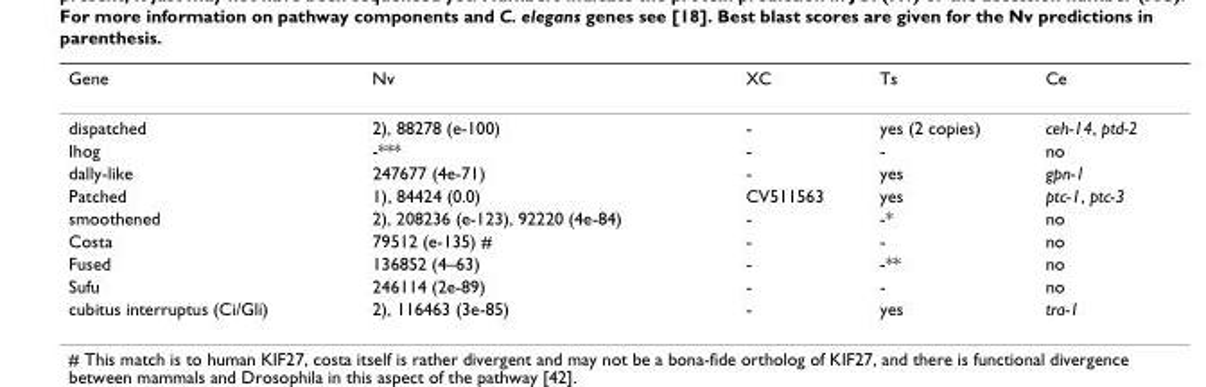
<table><thead><tr><td>Gene</td><td>Nv</td><td>XC</td><td>Ts</td><td>Ce</td></tr></thead><tbody><tr><td>dispatched</td><td>2), 88278 (e-100)</td><td>-</td><td>yes (2 copies)</td><td>ceh-14, ptd-2</td></tr><tr><td>Ihog</td><td>-***</td><td>-</td><td>-</td><td>no</td></tr><tr><td>dally-like</td><td>247677 (4e-71)</td><td>-</td><td>yes</td><td>gpn-1</td></tr><tr><td>Patched</td><td>1), 84424 (0.0)</td><td>CV511563</td><td>yes</td><td>ptc-1, ptc-3</td></tr><tr><td>smoothened</td><td>2), 208236 (e-123), 92220 (4e-84)</td><td>-</td><td>-*</td><td>no</td></tr><tr><td>Costa</td><td>79512 (e-135) #</td><td>-</td><td>-</td><td>no</td></tr><tr><td>Fused</td><td>136852 (4–63)</td><td>-</td><td>-**</td><td>no</td></tr><tr><td>Sufu</td><td>246114 (2e-89)</td><td>-</td><td>-</td><td>no</td></tr><tr><td>cubitus interruptus (Ci/Gli)</td><td>2), 116463 (3e-85)</td><td>-</td><td>yes</td><td>tra-1</td></tr></tbody></table>